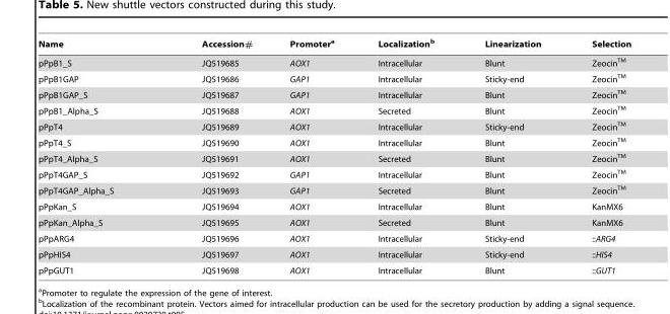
<table><thead><tr><td>Name</td><td>Accession#</td><td>Promoter<sup>a</sup></td><td>Localization<sup>b</sup></td><td>Linearization</td><td>Selection</td></tr></thead><tbody><tr><td>pPpB1_S</td><td>JQ519685</td><td>AOX1</td><td>Intracellular</td><td>Blunt</td><td>ZeocinTM</td></tr><tr><td>pPpB1GAP</td><td>JQ519686</td><td>GAP1</td><td>Intracellular</td><td>Sticky-end</td><td>ZeocinTM</td></tr><tr><td>pPpB1GAP_S</td><td>JQ519687</td><td>GAP1</td><td>Intracellular</td><td>Blunt</td><td>ZeocinTM</td></tr><tr><td>pPpB1_Alpha_S</td><td>JQ519688</td><td>AOX1</td><td>Secreted</td><td>Blunt</td><td>ZeocinTM</td></tr><tr><td>pPpT4</td><td>JQ519689</td><td>AOX1</td><td>Intracellular</td><td>Sticky-end</td><td>ZeocinTM</td></tr><tr><td>pPpT4_S</td><td>JQ519690</td><td>AOX1</td><td>Intracellular</td><td>Blunt</td><td>ZeocinTM</td></tr><tr><td>pPpT4_Alpha_S</td><td>JQ519691</td><td>AOX1</td><td>Secreted</td><td>Blunt</td><td>ZeocinTM</td></tr><tr><td>pPpT4GAP_S</td><td>JQ519692</td><td>GAP1</td><td>Intracellular</td><td>Blunt</td><td>ZeocinTM</td></tr><tr><td>pPpT4GAP_Alpha_S</td><td>JQ519693</td><td>GAP1</td><td>Secreted</td><td>Blunt</td><td>ZeocinTM</td></tr><tr><td>pPpKan_S</td><td>JQ519694</td><td>AOX1</td><td>Intracellular</td><td>Blunt</td><td>KanMX6</td></tr><tr><td>pPpKan_Alpha_S</td><td>JQ519695</td><td>AOX1</td><td>Secreted</td><td>Blunt</td><td>KanMX6</td></tr><tr><td>pPpARG4</td><td>JQ519696</td><td>AOX1</td><td>Intracellular</td><td>Sticky-end</td><td>::ARG4</td></tr><tr><td>pPpHIS4</td><td>JQ519697</td><td>AOX1</td><td>Intracellular</td><td>Sticky-end</td><td>::HIS4</td></tr><tr><td>pPpGUT1</td><td>JQ519698</td><td>AOX1</td><td>Intracellular</td><td>Blunt</td><td>::GUT1</td></tr></tbody></table>